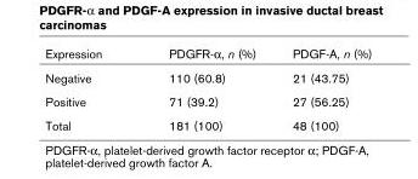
<table><thead><tr><td>Expression</td><td>PDGFR-α, n (%)</td><td>PDGF-A, n (%)</td></tr></thead><tbody><tr><td>Negative</td><td>110 (60.8)</td><td>21 (43.75)</td></tr><tr><td>Positive</td><td>71 (39.2)</td><td>27 (56.25)</td></tr><tr><td>Total</td><td>181 (100)</td><td>48 (100)</td></tr></tbody></table>